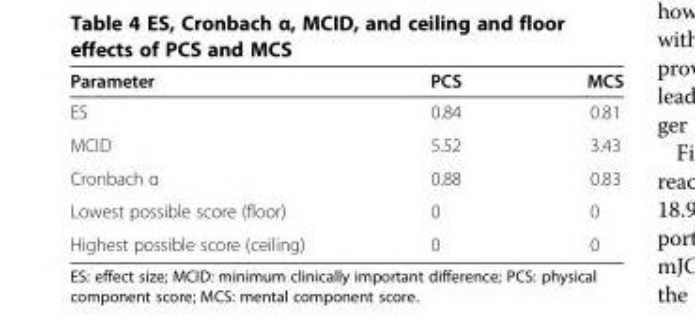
<table><thead><tr><td>Parameter</td><td>PCS</td><td>MCS</td></tr></thead><tbody><tr><td>ES</td><td>0.84</td><td>0.81</td></tr><tr><td>MCID</td><td>5.52</td><td>3.43</td></tr><tr><td>Cronbach α</td><td>0.88</td><td>0.83</td></tr><tr><td>Lowest possible score (floor)</td><td>0</td><td>0</td></tr><tr><td>Highest possible score (ceiling)</td><td>0</td><td>0</td></tr></tbody></table>